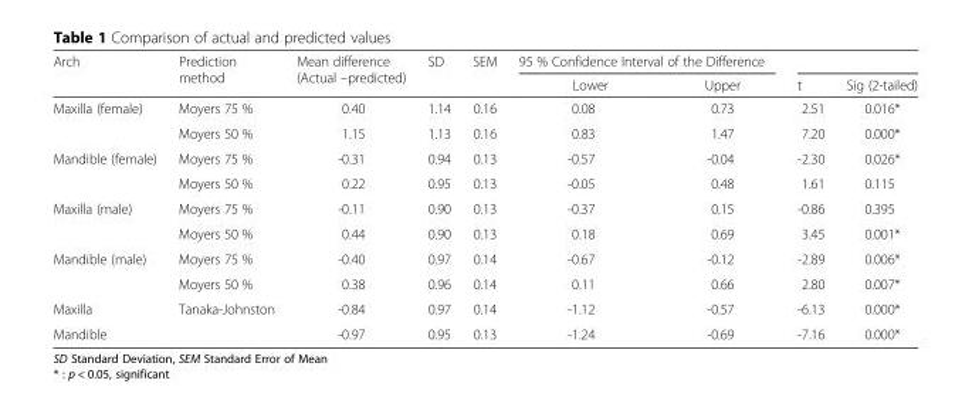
<table><thead><tr><td rowspan="2">Arch</td><td rowspan="2">Prediction method</td><td rowspan="2">Mean difference (Actual –predicted)</td><td rowspan="2">SD</td><td rowspan="2">SEM</td><td colspan="2">95 % Confidence Interval of the Difference</td><td rowspan="2">t</td><td rowspan="2">Sig (2-tailed)</td></tr><tr><td>Lower</td><td>Upper</td></tr></thead><tbody><tr><td rowspan="2">Maxilla (female)</td><td>Moyers 75 %</td><td>0.40</td><td>1.14</td><td>0.16</td><td>0.08</td><td>0.73</td><td>2.51</td><td>0.016*</td></tr><tr><td>Moyers 50 %</td><td>1.15</td><td>1.13</td><td>0.16</td><td>0.83</td><td>1.47</td><td>7.20</td><td>0.000*</td></tr><tr><td rowspan="2">Mandible (female)</td><td>Moyers 75 %</td><td>-0.31</td><td>0.94</td><td>0.13</td><td>-0.57</td><td>-0.04</td><td>-2.30</td><td>0.026*</td></tr><tr><td>Moyers 50 %</td><td>0.22</td><td>0.95</td><td>0.13</td><td>-0.05</td><td>0.48</td><td>1.61</td><td>0.115</td></tr><tr><td rowspan="2">Maxilla (male)</td><td>Moyers 75 %</td><td>-0.11</td><td>0.90</td><td>0.13</td><td>-0.37</td><td>0.15</td><td>-0.86</td><td>0.395</td></tr><tr><td>Moyers 50 %</td><td>0.44</td><td>0.90</td><td>0.13</td><td>0.18</td><td>0.69</td><td>3.45</td><td>0.001*</td></tr><tr><td rowspan="2">Mandible (male)</td><td>Moyers 75 %</td><td>-0.40</td><td>0.97</td><td>0.14</td><td>-0.67</td><td>-0.12</td><td>-2.89</td><td>0.006*</td></tr><tr><td>Moyers 50 %</td><td>0.38</td><td>0.96</td><td>0.14</td><td>0.11</td><td>0.66</td><td>2.80</td><td>0.007*</td></tr><tr><td>Maxilla</td><td rowspan="2">Tanaka-Johnston</td><td>-0.84</td><td>0.97</td><td>0.14</td><td>-1.12</td><td>-0.57</td><td>-6.13</td><td>0.000*</td></tr><tr><td>Mandible</td><td>-0.97</td><td>0.95</td><td>0.13</td><td>-1.24</td><td>-0.69</td><td>-7.16</td><td>0.000*</td></tr></tbody></table>